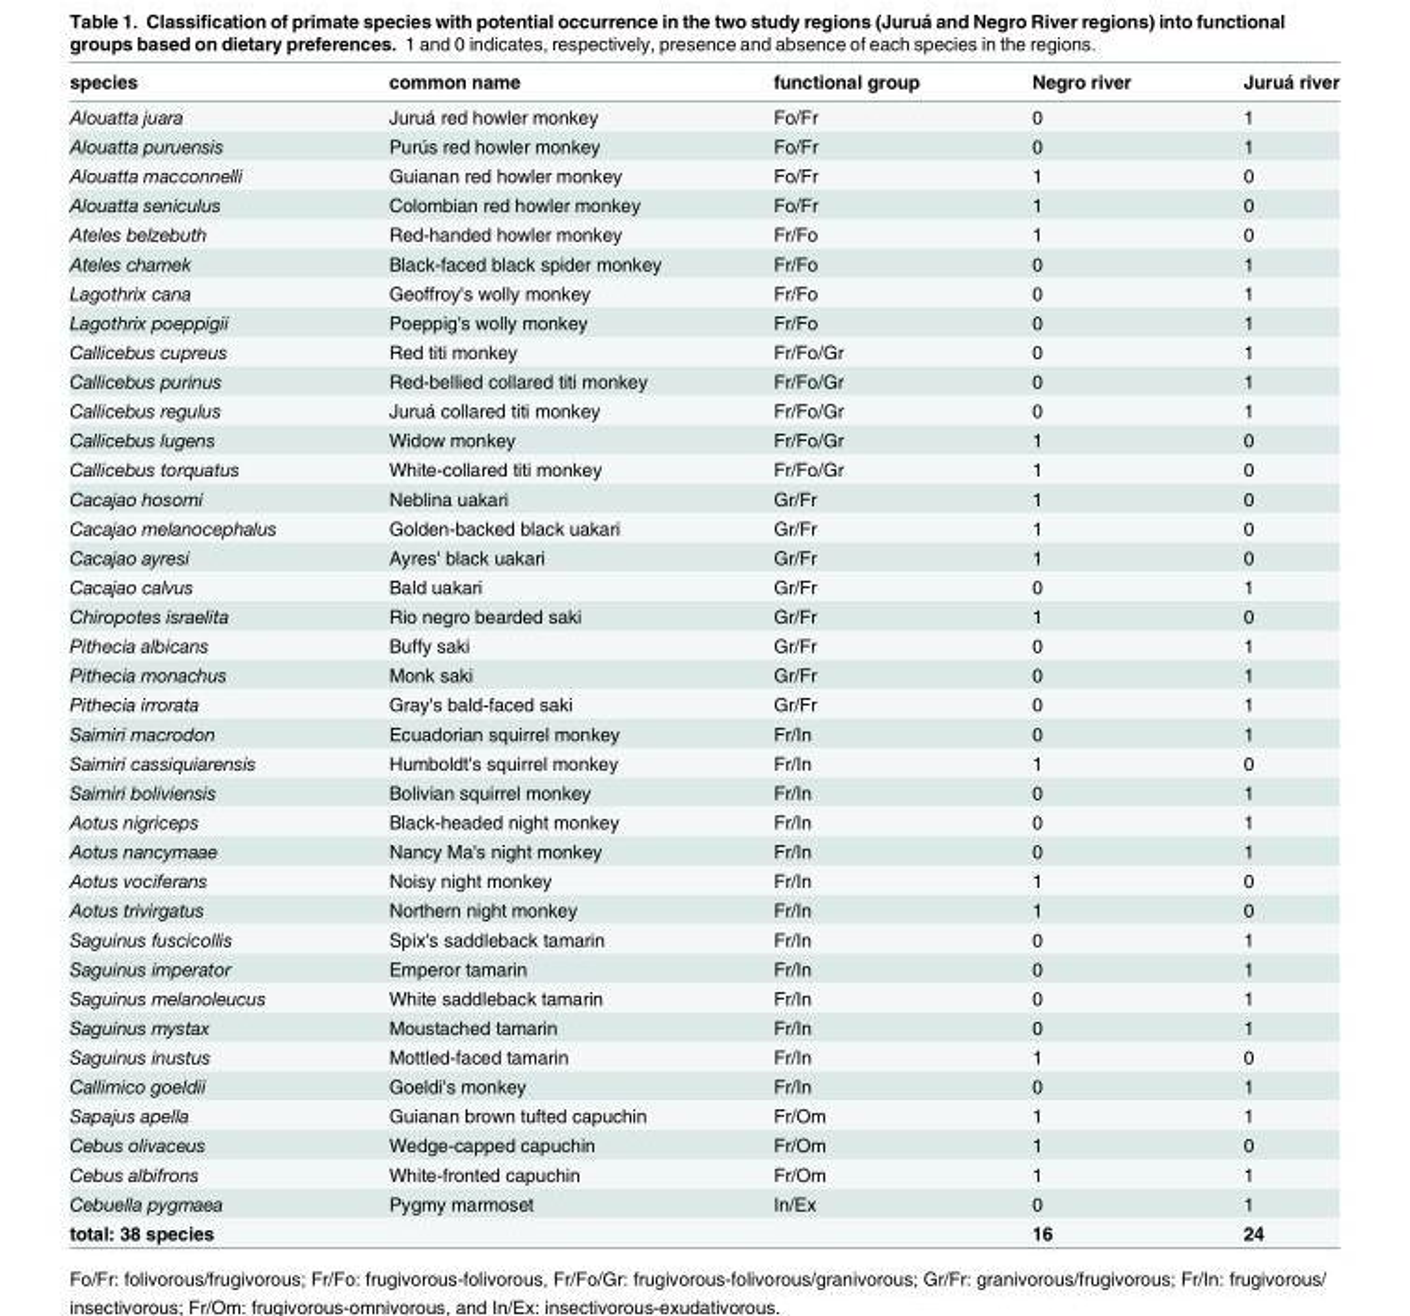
<table><thead><tr><td>species</td><td>common name</td><td>functional group</td><td>Negro river</td><td>Juruá river</td></tr></thead><tbody><tr><td>Alouatta juara</td><td>Juruá red howler monkey</td><td>Fo/Fr</td><td>0</td><td>1</td></tr><tr><td>Alouatta puruensis</td><td>Purús red howler monkey</td><td>Fo/Fr</td><td>0</td><td>1</td></tr><tr><td>Alouatta macconnelli</td><td>Guianan red howler monkey</td><td>Fo/Fr</td><td>1</td><td>0</td></tr><tr><td>Alouatta seniculus</td><td>Colombian red howler monkey</td><td>Fo/Fr</td><td>1</td><td>0</td></tr><tr><td>Ateles belzebuth</td><td>Red-handed howler monkey</td><td>Fr/Fo</td><td>1</td><td>0</td></tr><tr><td>Ateles chamek</td><td>Black-faced black spider monkey</td><td>Fr/Fo</td><td>0</td><td>1</td></tr><tr><td>Lagothrix cana</td><td>Geoffroy&#x27;s wolly monkey</td><td>Fr/Fo</td><td>0</td><td>1</td></tr><tr><td>Lagothrix poeppigii</td><td>Poeppig&#x27;s wolly monkey</td><td>Fr/Fo</td><td>0</td><td>1</td></tr><tr><td>Callicebus cupreus</td><td>Red titi monkey</td><td>Fr/Fo/Gr</td><td>0</td><td>1</td></tr><tr><td>Callicebus purinus</td><td>Red-bellied collared titi monkey</td><td>Fr/Fo/Gr</td><td>0</td><td>1</td></tr><tr><td>Callicebus regulus</td><td>Juruá collared titi monkey</td><td>Fr/Fo/Gr</td><td>0</td><td>1</td></tr><tr><td>Callicebus lugens</td><td>Widow monkey</td><td>Fr/Fo/Gr</td><td>1</td><td>0</td></tr><tr><td>Callicebus torquatus</td><td>White-collared titi monkey</td><td>Fr/Fo/Gr</td><td>1</td><td>0</td></tr><tr><td>Cacajao hosomi</td><td>Neblina uakari</td><td>Gr/Fr</td><td>1</td><td>0</td></tr><tr><td>Cacajao melanocephalus</td><td>Golden-backed black uakari</td><td>Gr/Fr</td><td>1</td><td>0</td></tr><tr><td>Cacajao ayresi</td><td>Ayres&#x27; black uakari</td><td>Gr/Fr</td><td>1</td><td>0</td></tr><tr><td>Cacajao calvus</td><td>Bald uakari</td><td>Gr/Fr</td><td>0</td><td>1</td></tr><tr><td>Chiropotes israelita</td><td>Rio negro bearded saki</td><td>Gr/Fr</td><td>1</td><td>0</td></tr><tr><td>Pithecia albicans</td><td>Buffy saki</td><td>Gr/Fr</td><td>0</td><td>1</td></tr><tr><td>Pithecia monachus</td><td>Monk saki</td><td>Gr/Fr</td><td>0</td><td>1</td></tr><tr><td>Pithecia irrorata</td><td>Gray&#x27;s bald-faced saki</td><td>Gr/Fr</td><td>0</td><td>1</td></tr><tr><td>Saimiri macrodon</td><td>Ecuadorian squirrel monkey</td><td>Fr/In</td><td>0</td><td>1</td></tr><tr><td>Saimiri cassiquiarensis</td><td>Humboldt&#x27;s squirrel monkey</td><td>Fr/In</td><td>1</td><td>0</td></tr><tr><td>Saimiri boliviensis</td><td>Bolivian squirrel monkey</td><td>Fr/In</td><td>0</td><td>1</td></tr><tr><td>Aotus nigriceps</td><td>Black-headed night monkey</td><td>Fr/In</td><td>0</td><td>1</td></tr><tr><td>Aotus nancymaae</td><td>Nancy Ma&#x27;s night monkey</td><td>Fr/In</td><td>0</td><td>1</td></tr><tr><td>Aotus vociferans</td><td>Noisy night monkey</td><td>Fr/In</td><td>1</td><td>0</td></tr><tr><td>Aotus trivirgatus</td><td>Northern night monkey</td><td>Fr/In</td><td>1</td><td>0</td></tr><tr><td>Saguinus fuscicollis</td><td>Spix&#x27;s saddleback tamarin</td><td>Fr/In</td><td>0</td><td>1</td></tr><tr><td>Saguinus imperator</td><td>Emperor tamarin</td><td>Fr/In</td><td>0</td><td>1</td></tr><tr><td>Saguinus melanoleucus</td><td>White saddleback tamarin</td><td>Fr/In</td><td>0</td><td>1</td></tr><tr><td>Saguinus mystax</td><td>Moustached tamarin</td><td>Fr/In</td><td>0</td><td>1</td></tr><tr><td>Saguinus inustus</td><td>Mottled-faced tamarin</td><td>Fr/In</td><td>1</td><td>0</td></tr><tr><td>Callimico goeldii</td><td>Goeldi&#x27;s monkey</td><td>Fr/In</td><td>0</td><td>1</td></tr><tr><td>Sapajus apella</td><td>Guianan brown tufted capuchin</td><td>Fr/Om</td><td>1</td><td>1</td></tr><tr><td>Cebus olivaceus</td><td>Wedge-capped capuchin</td><td>Fr/Om</td><td>1</td><td>0</td></tr><tr><td>Cebus albifrons</td><td>White-fronted capuchin</td><td>Fr/Om</td><td>1</td><td>1</td></tr><tr><td>Cebuella pygmaea</td><td>Pygmy marmoset</td><td>In/Ex</td><td>0</td><td>1</td></tr><tr><td>total: 38 species</td><td></td><td></td><td>16</td><td>24</td></tr></tbody></table>